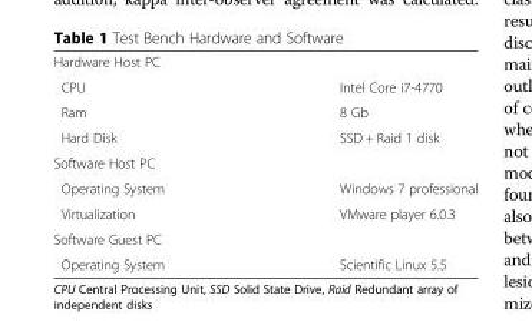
<table><tbody><tr><td colspan="2">Hardware Host PC</td></tr><tr><td>CPU</td><td>Intel Core i7-4770</td></tr><tr><td>Ram</td><td>8 Gb</td></tr><tr><td>Hard Disk</td><td>SSD + Raid 1 disk</td></tr><tr><td colspan="2">Software Host PC</td></tr><tr><td>Operating System</td><td>Windows 7 professional</td></tr><tr><td>Virtualization</td><td>VMware player 6.0.3</td></tr><tr><td colspan="2">Software Guest PC</td></tr><tr><td>Operating System</td><td>Scientific Linux 5.5</td></tr></tbody></table>